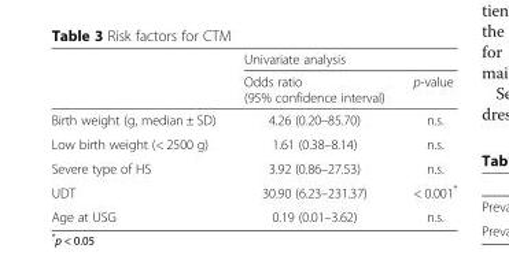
<table><thead><tr><td rowspan="2"></td><td colspan="2">Univariate analysis</td></tr><tr><td>Odds ratio (95% confidence interval)</td><td>p-value</td></tr></thead><tbody><tr><td>Birth weight (g, median ± SD)</td><td>4.26 (0.20–85.70)</td><td>n.s.</td></tr><tr><td>Low birth weight (&lt; 2500 g)</td><td>1.61 (0.38–8.14)</td><td>n.s.</td></tr><tr><td>Severe type of HS</td><td>3.92 (0.86–27.53)</td><td>n.s.</td></tr><tr><td>UDT</td><td>30.90 (6.23–231.37)</td><td>&lt; 0.001*</td></tr><tr><td>Age at USG</td><td>0.19 (0.01–3.62)</td><td>n.s.</td></tr></tbody></table>